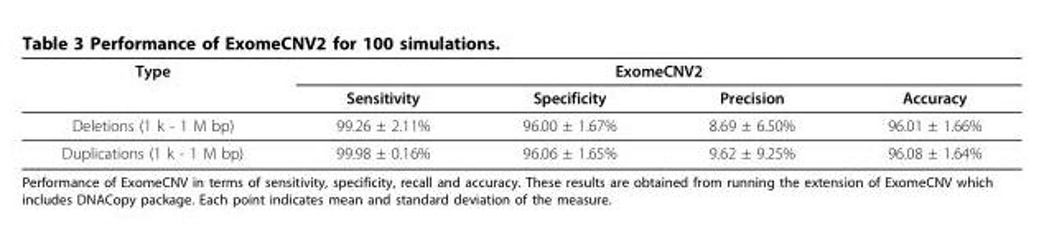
<table><thead><tr><td rowspan="2">Type</td><td colspan="4">ExomeCNV2</td></tr><tr><td>Sensitivity</td><td>Specificity</td><td>Precision</td><td>Accuracy</td></tr></thead><tbody><tr><td>Deletions (1 k - 1 M bp)</td><td>99.26 ± 2.11%</td><td>96.00 ± 1.67%</td><td>8.69 ± 6.50%</td><td>96.01 ± 1.66%</td></tr><tr><td>Duplications (1 k - 1 M bp)</td><td>99.98 ± 0.16%</td><td>96.06 ± 1.65%</td><td>9.62 ± 9.25%</td><td>96.08 ± 1.64%</td></tr></tbody></table>